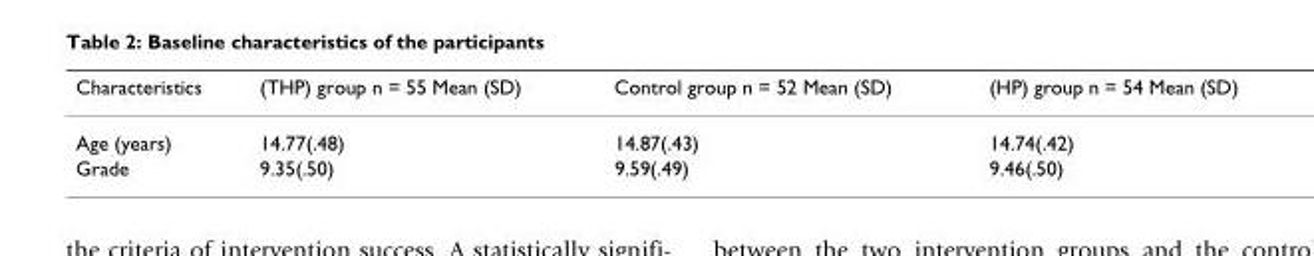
<table><thead><tr><td>Characteristics</td><td>(THP) group n = 55 Mean (SD)</td><td>Control group n = 52 Mean (SD)</td><td>(HP) group n = 54 Mean (SD)</td></tr></thead><tbody><tr><td>Age (years)</td><td>14.77(.48)</td><td>14.87(.43)</td><td>14.74(.42)</td></tr><tr><td>Grade</td><td>9.35(.50)</td><td>9.59(.49)</td><td>9.46(.50)</td></tr></tbody></table>